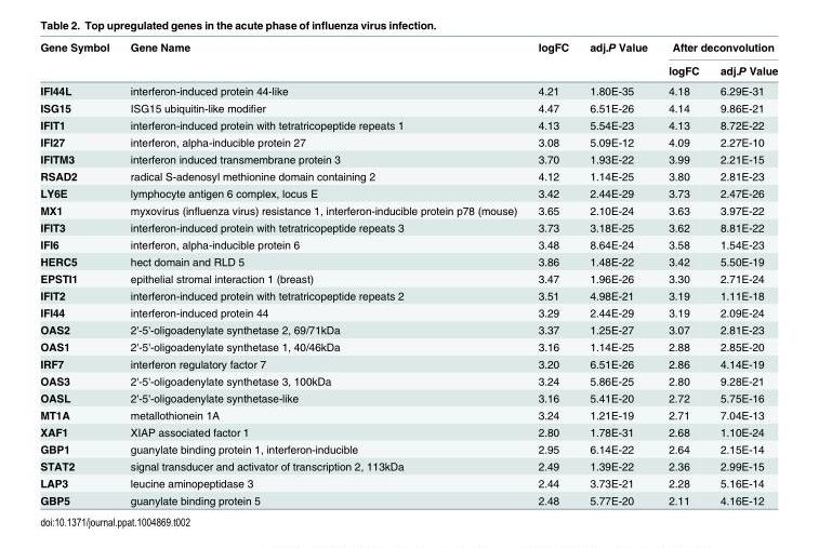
<table><thead><tr><td rowspan="2">Gene Symbol</td><td rowspan="2">Gene Name</td><td rowspan="2">logFC</td><td rowspan="2">adj.P Value</td><td colspan="2">After deconvolution</td></tr><tr><td>logFC</td><td>adj.P Value</td></tr></thead><tbody><tr><td>IFI44L</td><td>interferon-induced protein 44-like</td><td>4.21</td><td>1.80E-35</td><td>4.18</td><td>6.29E-31</td></tr><tr><td>ISG15</td><td>ISG15 ubiquitin-like modifier</td><td>4.47</td><td>6.51E-26</td><td>4.14</td><td>9.86E-21</td></tr><tr><td>IFIT1</td><td>interferon-induced protein with tetratricopeptide repeats 1</td><td>4.13</td><td>5.54E-23</td><td>4.13</td><td>8.72E-22</td></tr><tr><td>IFI27</td><td>interferon, alpha-inducible protein 27</td><td>3.08</td><td>5.09E-12</td><td>4.09</td><td>2.27E-10</td></tr><tr><td>IFITM3</td><td>interferon induced transmembrane protein 3</td><td>3.70</td><td>1.93E-22</td><td>3.99</td><td>2.21E-15</td></tr><tr><td>RSAD2</td><td>radical S-adenosyl methionine domain containing 2</td><td>4.12</td><td>1.14E-25</td><td>3.80</td><td>2.81E-23</td></tr><tr><td>LY6E</td><td>lymphocyte antigen 6 complex, locus E</td><td>3.42</td><td>2.44E-29</td><td>3.73</td><td>2.47E-26</td></tr><tr><td>MX1</td><td>myxovirus (influenza virus) resistance 1, interferon-inducible protein p78 (mouse)</td><td>3.65</td><td>2.10E-24</td><td>3.63</td><td>3.97E-22</td></tr><tr><td>IFIT3</td><td>interferon-induced protein with tetratricopeptide repeats 3</td><td>3.73</td><td>3.18E-25</td><td>3.62</td><td>8.81E-22</td></tr><tr><td>IFI6</td><td>interferon, alpha-inducible protein 6</td><td>3.48</td><td>8.64E-24</td><td>3.58</td><td>1.54E-23</td></tr><tr><td>HERC5</td><td>hect domain and RLD 5</td><td>3.86</td><td>1.48E-22</td><td>3.42</td><td>5.50E-19</td></tr><tr><td>EPSTI1</td><td>epithelial stromal interaction 1 (breast)</td><td>3.47</td><td>1.96E-26</td><td>3.30</td><td>2.71E-24</td></tr><tr><td>IFIT2</td><td>interferon-induced protein with tetratricopeptide repeats 2</td><td>3.51</td><td>4.98E-21</td><td>3.19</td><td>1.11E-18</td></tr><tr><td>IFI44</td><td>interferon-induced protein 44</td><td>3.29</td><td>2.44E-29</td><td>3.19</td><td>2.09E-24</td></tr><tr><td>OAS2</td><td>2&#x27;-5&#x27;-oligoadenylate synthetase 2, 69/71kDa</td><td>3.37</td><td>1.25E-27</td><td>3.07</td><td>2.81E-23</td></tr><tr><td>OAS1</td><td>2&#x27;-5&#x27;-oligoadenylate synthetase 1, 40/46kDa</td><td>3.16</td><td>1.14E-25</td><td>2.88</td><td>2.85E-20</td></tr><tr><td>IRF7</td><td>interferon regulatory factor 7</td><td>3.20</td><td>6.51E-26</td><td>2.86</td><td>4.14E-19</td></tr><tr><td>OAS3</td><td>2&#x27;-5&#x27;-oligoadenylate synthetase 3, 100kDa</td><td>3.24</td><td>5.86E-25</td><td>2.80</td><td>9.28E-21</td></tr><tr><td>OASL</td><td>2&#x27;-5&#x27;-oligoadenylate synthetase-like</td><td>3.16</td><td>5.41E-20</td><td>2.72</td><td>5.75E-16</td></tr><tr><td>MT1A</td><td>metallothionein 1A</td><td>3.24</td><td>1.21E-19</td><td>2.71</td><td>7.04E-13</td></tr><tr><td>XAF1</td><td>XIAP associated factor 1</td><td>2.80</td><td>1.78E-31</td><td>2.68</td><td>1.10E-24</td></tr><tr><td>GBP1</td><td>guanylate binding protein 1, interferon-inducible</td><td>2.95</td><td>6.14E-22</td><td>2.64</td><td>2.15E-14</td></tr><tr><td>STAT2</td><td>signal transducer and activator of transcription 2, 113kDa</td><td>2.49</td><td>1.39E-22</td><td>2.36</td><td>2.99E-15</td></tr><tr><td>LAP3</td><td>leucine aminopeptidase 3</td><td>2.44</td><td>3.73E-21</td><td>2.28</td><td>5.16E-14</td></tr><tr><td>GBP5</td><td>guanylate binding protein 5</td><td>2.48</td><td>5.77E-20</td><td>2.11</td><td>4.16E-12</td></tr></tbody></table>